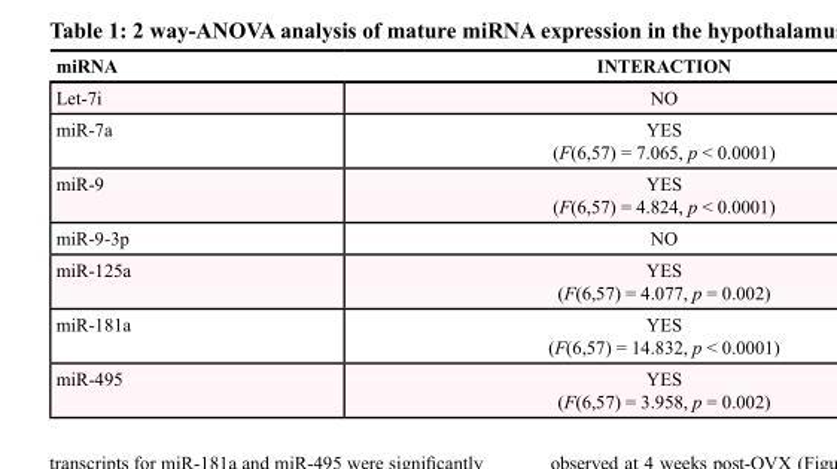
<table><thead><tr><td>miRNA</td><td>INTERACTION</td></tr></thead><tbody><tr><td>Let-7i</td><td>NO</td></tr><tr><td>miR-7a</td><td>YES (F(6,57) = 7.065, p &lt; 0.0001)</td></tr><tr><td>miR-9</td><td>YES (F(6,57) = 4.824, p &lt; 0.0001)</td></tr><tr><td>miR-9-3p</td><td>NO</td></tr><tr><td>miR-125a</td><td>YES (F(6,57) = 4.077, p = 0.002)</td></tr><tr><td>miR-181a</td><td>YES (F(6,57) = 14.832, p &lt; 0.0001)</td></tr><tr><td>miR-495</td><td>YES (F(6,57) = 3.958, p = 0.002)</td></tr></tbody></table>